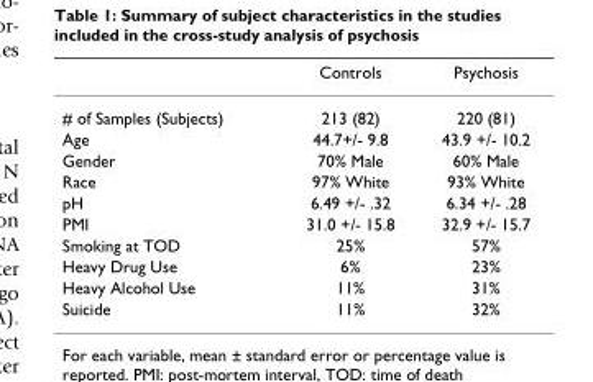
<table><thead><tr><td></td><td>Controls</td><td>Psychosis</td></tr></thead><tbody><tr><td># of Samples (Subjects)</td><td>213 (82)</td><td>220 (81)</td></tr><tr><td>Age</td><td>44.7+/- 9.8</td><td>43.9 +/- 10.2</td></tr><tr><td>Gender</td><td>70% Male</td><td>60% Male</td></tr><tr><td>Race</td><td>97% White</td><td>93% White</td></tr><tr><td>pH</td><td>6.49 +/- .32</td><td>6.34 +/- .28</td></tr><tr><td>PMI</td><td>31.0 +/- 15.8</td><td>32.9 +/- 15.7</td></tr><tr><td>Smoking at TOD</td><td>25%</td><td>57%</td></tr><tr><td>Heavy Drug Use</td><td>6%</td><td>23%</td></tr><tr><td>Heavy Alcohol Use</td><td>11%</td><td>31%</td></tr><tr><td>Suicide</td><td>11%</td><td>32%</td></tr></tbody></table>